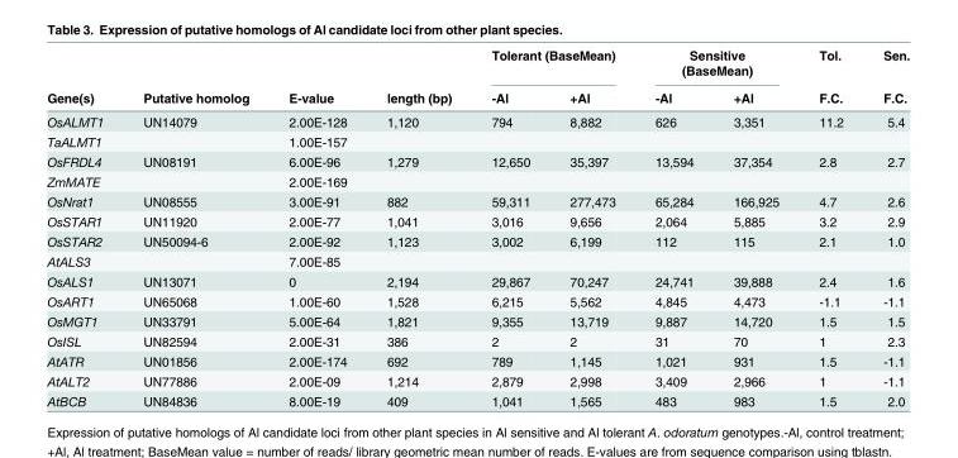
<table><thead><tr><td rowspan="2">Gene(s)</td><td rowspan="2">Putative homolog</td><td rowspan="2">E-value</td><td rowspan="2">length (bp)</td><td colspan="2">Tolerant (BaseMean)</td><td colspan="2">Sensitive (BaseMean)</td><td rowspan="2">Tol. F.C.</td><td rowspan="2">Sen. F.C.</td></tr><tr><td>-Al</td><td>+Al</td><td>-Al</td><td>+Al</td></tr></thead><tbody><tr><td>OsALMT1</td><td>UN14079</td><td>2.00E-128</td><td>1,120</td><td>794</td><td>8,882</td><td>626</td><td>3,351</td><td>11.2</td><td>5.4</td></tr><tr><td>TaALMT1</td><td></td><td>1.00E-157</td><td></td><td></td><td></td><td></td><td></td><td></td><td></td></tr><tr><td>OsFRDL4</td><td>UN08191</td><td>6.00E-96</td><td>1,279</td><td>12,650</td><td>35,397</td><td>13,594</td><td>37,354</td><td>2.8</td><td>2.7</td></tr><tr><td>ZmMATE</td><td></td><td>2.00E-169</td><td></td><td></td><td></td><td></td><td></td><td></td><td></td></tr><tr><td>OsNrat1</td><td>UN08555</td><td>3.00E-91</td><td>882</td><td>59,311</td><td>277,473</td><td>65,284</td><td>166,925</td><td>4.7</td><td>2.6</td></tr><tr><td>OsSTAR1</td><td>UN11920</td><td>2.00E-77</td><td>1,041</td><td>3,016</td><td>9,656</td><td>2,064</td><td>5,885</td><td>3.2</td><td>2.9</td></tr><tr><td>OsSTAR2</td><td>UN50094-6</td><td>2.00E-92</td><td>1,123</td><td>3,002</td><td>6,199</td><td>112</td><td>115</td><td>2.1</td><td>1.0</td></tr><tr><td>AtALS3</td><td></td><td>7.00E-85</td><td></td><td></td><td></td><td></td><td></td><td></td><td></td></tr><tr><td>OsALS1</td><td>UN13071</td><td>0</td><td>2,194</td><td>29,867</td><td>70,247</td><td>24,741</td><td>39,888</td><td>2.4</td><td>1.6</td></tr><tr><td>OsART1</td><td>UN65068</td><td>1.00E-60</td><td>1,528</td><td>6,215</td><td>5,562</td><td>4,845</td><td>4,473</td><td>-1.1</td><td>-1.1</td></tr><tr><td>OsMGT1</td><td>UN33791</td><td>5.00E-64</td><td>1,821</td><td>9,355</td><td>13,719</td><td>9,887</td><td>14,720</td><td>1.5</td><td>1.5</td></tr><tr><td>OsISL</td><td>UN82594</td><td>2.00E-31</td><td>386</td><td>2</td><td>2</td><td>31</td><td>70</td><td>1</td><td>2.3</td></tr><tr><td>AtATR</td><td>UN01856</td><td>2.00E-174</td><td>692</td><td>789</td><td>1,145</td><td>1,021</td><td>931</td><td>1.5</td><td>-1.1</td></tr><tr><td>AtALT2</td><td>UN77886</td><td>2.00E-09</td><td>1,214</td><td>2,879</td><td>2,998</td><td>3,409</td><td>2,966</td><td>1</td><td>-1.1</td></tr><tr><td>AtBCB</td><td>UN84836</td><td>8.00E-19</td><td>409</td><td>1,041</td><td>1,565</td><td>483</td><td>983</td><td>1.5</td><td>2.0</td></tr></tbody></table>